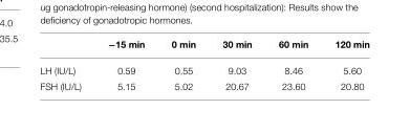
<table><thead><tr><td></td><td>−15 min</td><td>0 min</td><td>30 min</td><td>60 min</td><td>120 min</td></tr></thead><tbody><tr><td>LH (IU/L)</td><td>0.59</td><td>0.55</td><td>9.03</td><td>8.46</td><td>5.60</td></tr><tr><td>FSH (IU/L)</td><td>5.15</td><td>5.02</td><td>20.67</td><td>23.60</td><td>20.80</td></tr></tbody></table>